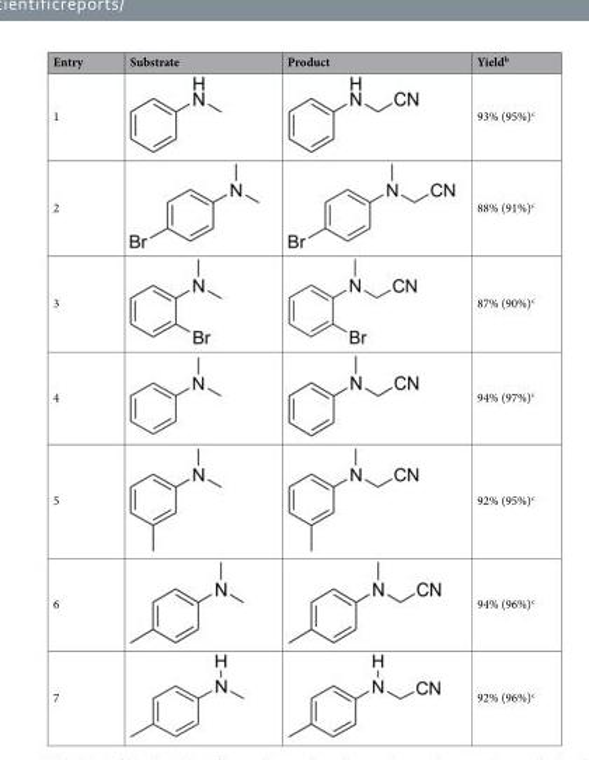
<table><thead><tr><td>Entry</td><td>Substrate</td><td>Product</td><td>Yield<sup>b</sup></td></tr></thead><tbody><tr><td>1</td><td></td><td></td><td>93% (95%)<sup>c</sup></td></tr><tr><td>2</td><td></td><td></td><td>88% (91%)<sup>c</sup></td></tr><tr><td>3</td><td></td><td></td><td>87% (90%)<sup>c</sup></td></tr><tr><td>4</td><td></td><td></td><td>94% (97%)<sup>c</sup></td></tr><tr><td>5</td><td></td><td></td><td>92% (95%)<sup>c</sup></td></tr><tr><td>6</td><td></td><td></td><td>94% (96%)<sup>c</sup></td></tr><tr><td>7</td><td></td><td></td><td>92% (96%)<sup>c</sup></td></tr></tbody></table>